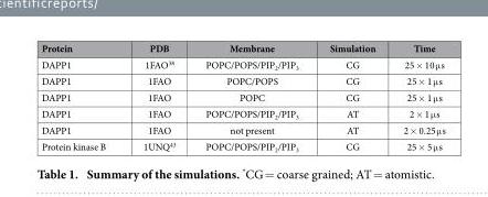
<table><thead><tr><td>Protein</td><td>PDB</td><td>Membrane</td><td>Simulation</td><td>Time</td></tr></thead><tbody><tr><td>DAPP1</td><td>1FAO<sup>38</sup></td><td>POPC/POPS/PIP<sub>2</sub>/PIP<sub>3</sub></td><td>CG</td><td>25 × 10 μ s</td></tr><tr><td>DAPP1</td><td>1FAO</td><td>POPC/POPS</td><td>CG</td><td>25 × 1 μ s</td></tr><tr><td>DAPP1</td><td>1FAO</td><td>POPC</td><td>CG</td><td>25 × 1 μ s</td></tr><tr><td>DAPP1</td><td>1FAO</td><td>POPC/POPS/PIP<sub>2</sub>/PIP<sub>3</sub></td><td>AT</td><td>2 × 1 μ s</td></tr><tr><td>DAPP1</td><td>1FAO</td><td>not present</td><td>AT</td><td>2 × 0.25 μ s</td></tr><tr><td>Protein kinase B</td><td>1UNQ<sup>43</sup></td><td>POPC/POPS/PIP<sub>2</sub>/PIP<sub>3</sub></td><td>CG</td><td>25 × 5 μ s</td></tr></tbody></table>